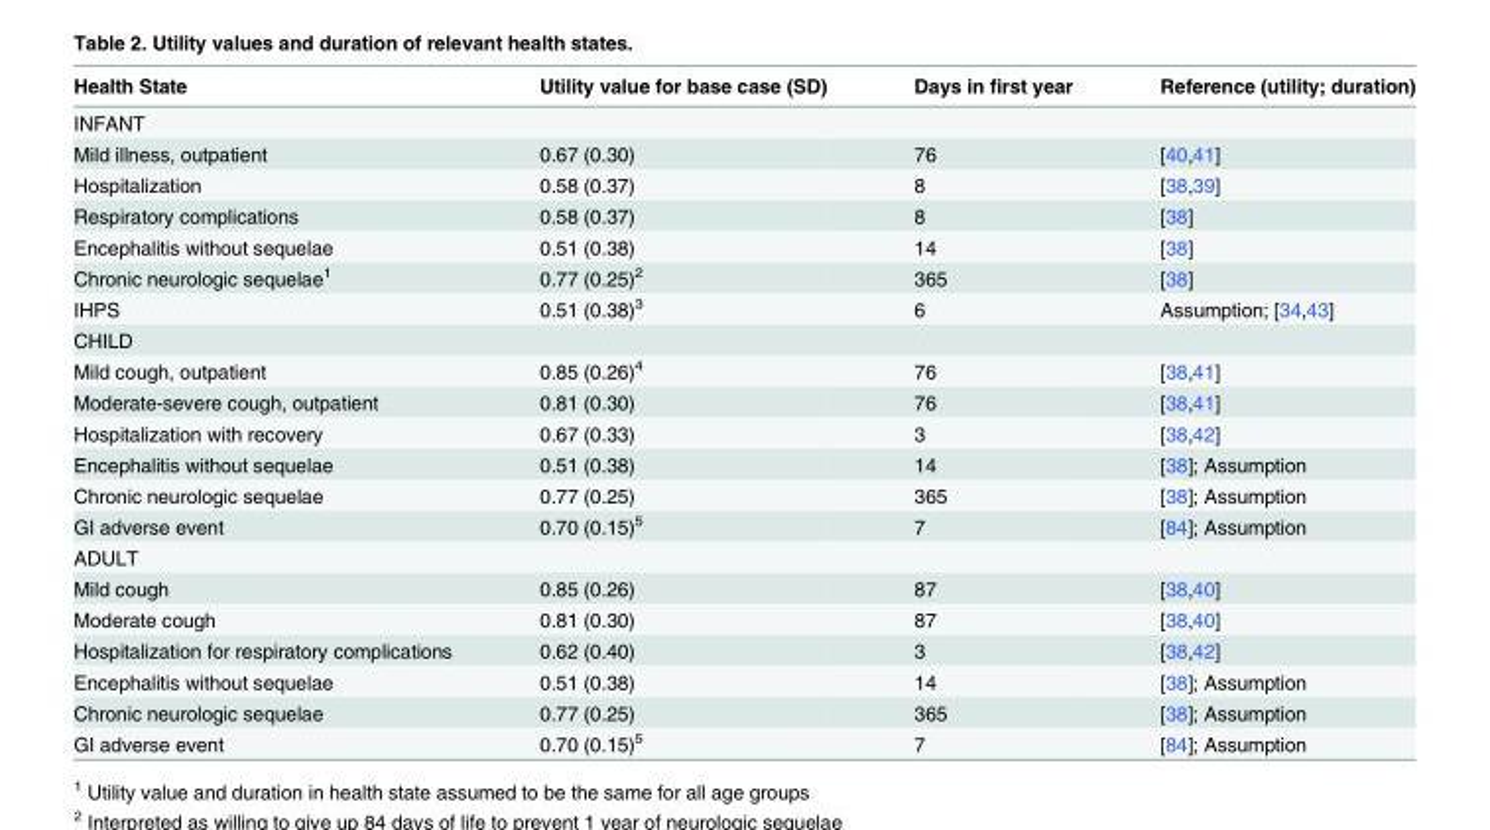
<table><thead><tr><td>Health State</td><td>Utility value for base case (SD)</td><td>Days in first year</td><td>Reference (utility; duration)</td></tr></thead><tbody><tr><td colspan="4">INFANT</td></tr><tr><td>Mild illness, outpatient</td><td>0.67 (0.30)</td><td>76</td><td>[40,41]</td></tr><tr><td>Hospitalization</td><td>0.58 (0.37)</td><td>8</td><td>[38,39]</td></tr><tr><td>Respiratory complications</td><td>0.58 (0.37)</td><td>8</td><td>[38]</td></tr><tr><td>Encephalitis without sequelae</td><td>0.51 (0.38)</td><td>14</td><td>[38]</td></tr><tr><td>Chronic neurologic sequelae<sup>1</sup></td><td>0.77 (0.25)<sup>2</sup></td><td>365</td><td>[38]</td></tr><tr><td>IHPS</td><td>0.51 (0.38)<sup>3</sup></td><td>6</td><td>Assumption; [34,43]</td></tr><tr><td colspan="4">CHILD</td></tr><tr><td>Mild cough, outpatient</td><td>0.85 (0.26)<sup>4</sup></td><td>76</td><td>[38,41]</td></tr><tr><td>Moderate-severe cough, outpatient</td><td>0.81 (0.30)</td><td>76</td><td>[38,41]</td></tr><tr><td>Hospitalization with recovery</td><td>0.67 (0.33)</td><td>3</td><td>[38,42]</td></tr><tr><td>Encephalitis without sequelae</td><td>0.51 (0.38)</td><td>14</td><td>[38]; Assumption</td></tr><tr><td>Chronic neurologic sequelae</td><td>0.77 (0.25)</td><td>365</td><td>[38]; Assumption</td></tr><tr><td>GI adverse event</td><td>0.70 (0.15)<sup>5</sup></td><td>7</td><td>[84]; Assumption</td></tr><tr><td colspan="4">ADULT</td></tr><tr><td>Mild cough</td><td>0.85 (0.26)</td><td>87</td><td>[38,40]</td></tr><tr><td>Moderate cough</td><td>0.81 (0.30)</td><td>87</td><td>[38,40]</td></tr><tr><td>Hospitalization for respiratory complications</td><td>0.62 (0.40)</td><td>3</td><td>[38,42]</td></tr><tr><td>Encephalitis without sequelae</td><td>0.51 (0.38)</td><td>14</td><td>[38]; Assumption</td></tr><tr><td>Chronic neurologic sequelae</td><td>0.77 (0.25)</td><td>365</td><td>[38]; Assumption</td></tr><tr><td>GI adverse event</td><td>0.70 (0.15)<sup>5</sup></td><td>7</td><td>[84]; Assumption</td></tr></tbody></table>